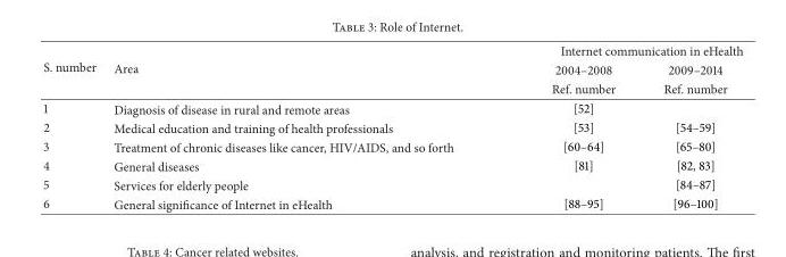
<table><thead><tr><td rowspan="3">S. number</td><td rowspan="3">Area</td><td colspan="2">Internet communication in eHealth</td></tr><tr><td rowspan="2">2004–2008 Ref. number</td><td rowspan="2">2009–2014 Ref. number</td></tr><tr></tr></thead><tbody><tr><td>1</td><td>Diagnosis of disease in rural and remote areas</td><td>[52]</td><td></td></tr><tr><td>2</td><td>Medical education and training of health professionals</td><td>[53]</td><td>[54–59]</td></tr><tr><td>3</td><td>Treatment of chronic diseases like cancer, HIV/AIDS, and so forth</td><td>[60–64]</td><td>[65–80]</td></tr><tr><td>4</td><td>General diseases</td><td>[81]</td><td>[82, 83]</td></tr><tr><td>5</td><td>Services for elderly people</td><td></td><td>[84–87]</td></tr><tr><td>6</td><td>General significance of Internet in eHealth</td><td>[88–95]</td><td>[96–100]</td></tr></tbody></table>